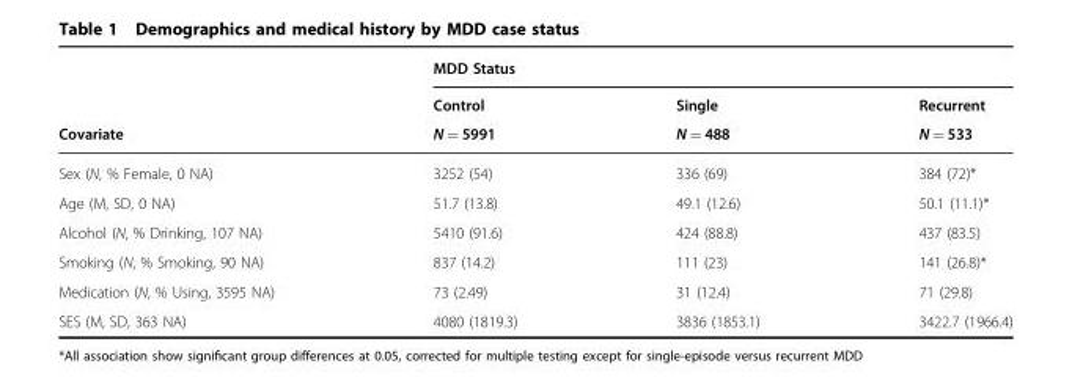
<table><thead><tr><td rowspan="3">Covariate</td><td colspan="3">MDD Status</td></tr><tr><td rowspan="2">Control N = 5991</td><td rowspan="2">Single N = 488</td><td rowspan="2">Recurrent N = 533</td></tr><tr></tr></thead><tbody><tr><td>Sex (N, % Female, 0 NA)</td><td>3252 (54)</td><td>336 (69)</td><td>384 (72)*</td></tr><tr><td>Age (M, SD, 0 NA)</td><td>51.7 (13.8)</td><td>49.1 (12.6)</td><td>50.1 (11.1)*</td></tr><tr><td>Alcohol (N, % Drinking, 107 NA)</td><td>5410 (91.6)</td><td>424 (88.8)</td><td>437 (83.5)</td></tr><tr><td>Smoking (N, % Smoking, 90 NA)</td><td>837 (14.2)</td><td>111 (23)</td><td>141 (26.8)*</td></tr><tr><td>Medication (N, % Using, 3595 NA)</td><td>73 (2.49)</td><td>31 (12.4)</td><td>71 (29.8)</td></tr><tr><td>SES (M, SD, 363 NA)</td><td>4080 (1819.3)</td><td>3836 (1853.1)</td><td>3422.7 (1966.4)</td></tr></tbody></table>